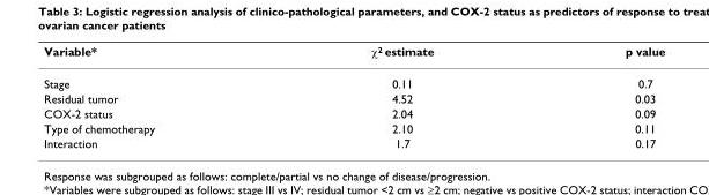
<table><thead><tr><td>Variable*</td><td>χ2 estimate</td><td>p value</td></tr></thead><tbody><tr><td>Stage</td><td>0.11</td><td>0.7</td></tr><tr><td>Residual tumor</td><td>4.52</td><td>0.03</td></tr><tr><td>COX-2 status</td><td>2.04</td><td>0.09</td></tr><tr><td>Type of chemotherapy</td><td>2.10</td><td>0.11</td></tr><tr><td>Interaction</td><td>1.7</td><td>0.17</td></tr></tbody></table>